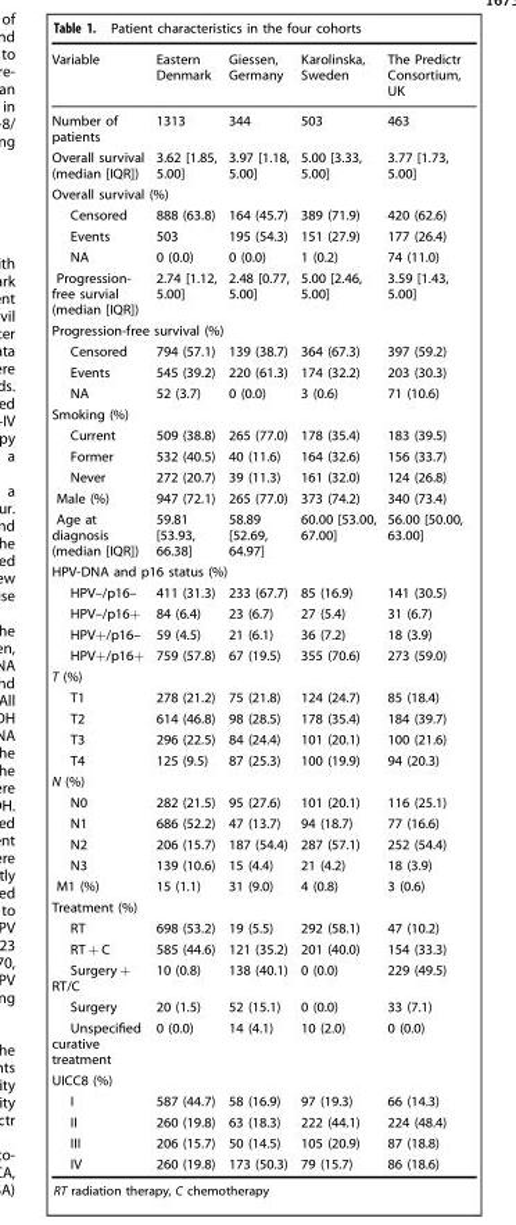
<table><thead><tr><td>Variable</td><td>Eastern Denmark</td><td>Giessen, Germany</td><td>Karolinska, Sweden</td><td>The Predictr Consortium, UK</td></tr></thead><tbody><tr><td>Number of patients</td><td>1313</td><td>344</td><td>503</td><td>463</td></tr><tr><td>Overall survival (median [IQR])</td><td>3.62 [1.85, 5.00]</td><td>3.97 [1.18, 5.00]</td><td>5.00 [3.33, 5.00]</td><td>3.77 [1.73, 5.00]</td></tr><tr><td colspan="5">Overall survival (%)</td></tr><tr><td>Censored</td><td>888 (63.8)</td><td>164 (45.7)</td><td>389 (71.9)</td><td>420 (62.6)</td></tr><tr><td>Events</td><td>503</td><td>195 (54.3)</td><td>151 (27.9)</td><td>177 (26.4)</td></tr><tr><td>NA</td><td>0 (0.0)</td><td>0 (0.0)</td><td>1 (0.2)</td><td>74 (11.0)</td></tr><tr><td>Progression- free survial (median [IQR])</td><td>2.74 [1.12, 5.00]</td><td>2.48 [0.77, 5.00]</td><td>5.00 [2.46, 5.00]</td><td>3.59 [1.43, 5.00]</td></tr><tr><td colspan="5">Progression-free survival (%)</td></tr><tr><td>Censored</td><td>794 (57.1)</td><td>139 (38.7)</td><td>364 (67.3)</td><td>397 (59.2)</td></tr><tr><td>Events</td><td>545 (39.2)</td><td>220 (61.3)</td><td>174 (32.2)</td><td>203 (30.3)</td></tr><tr><td>NA</td><td>52 (3.7)</td><td>0 (0.0)</td><td>3 (0.6)</td><td>71 (10.6)</td></tr><tr><td colspan="5">Smoking (%)</td></tr><tr><td>Current</td><td>509 (38.8)</td><td>265 (77.0)</td><td>178 (35.4)</td><td>183 (39.5)</td></tr><tr><td>Former</td><td>532 (40.5)</td><td>40 (11.6)</td><td>164 (32.6)</td><td>156 (33.7)</td></tr><tr><td>Never</td><td>272 (20.7)</td><td>39 (11.3)</td><td>161 (32.0)</td><td>124 (26.8)</td></tr><tr><td>Male (%)</td><td>947 (72.1)</td><td>265 (77.0)</td><td>373 (74.2)</td><td>340 (73.4)</td></tr><tr><td>Age at diagnosis (median [IQR])</td><td>59.81 [53.93, 66.38]</td><td>58.89 [52.69, 64.97]</td><td>60.00 [53.00, 67.00]</td><td>56.00 [50.00, 63.00]</td></tr><tr><td colspan="5">HPV-DNA and p16 status (%)</td></tr><tr><td>HPV–/p16–</td><td>411 (31.3)</td><td>233 (67.7)</td><td>85 (16.9)</td><td>141 (30.5)</td></tr><tr><td>HPV–/p16+</td><td>84 (6.4)</td><td>23 (6.7)</td><td>27 (5.4)</td><td>31 (6.7)</td></tr><tr><td>HPV+/p16–</td><td>59 (4.5)</td><td>21 (6.1)</td><td>36 (7.2)</td><td>18 (3.9)</td></tr><tr><td>HPV+/p16+</td><td>759 (57.8)</td><td>67 (19.5)</td><td>355 (70.6)</td><td>273 (59.0)</td></tr><tr><td colspan="5">T (%)</td></tr><tr><td>T1</td><td>278 (21.2)</td><td>75 (21.8)</td><td>124 (24.7)</td><td>85 (18.4)</td></tr><tr><td>T2</td><td>614 (46.8)</td><td>98 (28.5)</td><td>178 (35.4)</td><td>184 (39.7)</td></tr><tr><td>T3</td><td>296 (22.5)</td><td>84 (24.4)</td><td>101 (20.1)</td><td>100 (21.6)</td></tr><tr><td>T4</td><td>125 (9.5)</td><td>87 (25.3)</td><td>100 (19.9)</td><td>94 (20.3)</td></tr><tr><td colspan="5">N (%)</td></tr><tr><td>N0</td><td>282 (21.5)</td><td>95 (27.6)</td><td>101 (20.1)</td><td>116 (25.1)</td></tr><tr><td>N1</td><td>686 (52.2)</td><td>47 (13.7)</td><td>94 (18.7)</td><td>77 (16.6)</td></tr><tr><td>N2</td><td>206 (15.7)</td><td>187 (54.4)</td><td>287 (57.1)</td><td>252 (54.4)</td></tr><tr><td>N3</td><td>139 (10.6)</td><td>15 (4.4)</td><td>21 (4.2)</td><td>18 (3.9)</td></tr><tr><td>M1 (%)</td><td>15 (1.1)</td><td>31 (9.0)</td><td>4 (0.8)</td><td>3 (0.6)</td></tr><tr><td colspan="5">Treatment (%)</td></tr><tr><td>RT</td><td>698 (53.2)</td><td>19 (5.5)</td><td>292 (58.1)</td><td>47 (10.2)</td></tr><tr><td>RT + C</td><td>585 (44.6)</td><td>121 (35.2)</td><td>201 (40.0)</td><td>154 (33.3)</td></tr><tr><td>Surgery + RT/C</td><td>10 (0.8)</td><td>138 (40.1)</td><td>0 (0.0)</td><td>229 (49.5)</td></tr><tr><td>Surgery</td><td>20 (1.5)</td><td>52 (15.1)</td><td>0 (0.0)</td><td>33 (7.1)</td></tr><tr><td>Unspecified curative treatment</td><td>0 (0.0)</td><td>14 (4.1)</td><td>10 (2.0)</td><td>0 (0.0)</td></tr><tr><td colspan="5">UICC8 (%)</td></tr><tr><td>I</td><td>587 (44.7)</td><td>58 (16.9)</td><td>97 (19.3)</td><td>66 (14.3)</td></tr><tr><td>II</td><td>260 (19.8)</td><td>63 (18.3)</td><td>222 (44.1)</td><td>224 (48.4)</td></tr><tr><td>III</td><td>206 (15.7)</td><td>50 (14.5)</td><td>105 (20.9)</td><td>87 (18.8)</td></tr><tr><td>IV</td><td>260 (19.8)</td><td>173 (50.3)</td><td>79 (15.7)</td><td>86 (18.6)</td></tr></tbody></table>